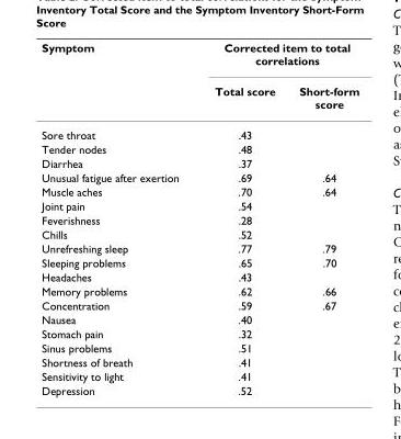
<table><thead><tr><td rowspan="2">Symptom</td><td colspan="2">Corrected item to total correlations</td></tr><tr><td>Total score</td><td>Short-form score</td></tr></thead><tbody><tr><td>Sore throat</td><td>.43</td><td></td></tr><tr><td>Tender nodes</td><td>.48</td><td></td></tr><tr><td>Diarrhea</td><td>.37</td><td></td></tr><tr><td>Unusual fatigue after exertion</td><td>.69</td><td>.64</td></tr><tr><td>Muscle aches</td><td>.70</td><td>.64</td></tr><tr><td>Joint pain</td><td>.54</td><td></td></tr><tr><td>Feverishness</td><td>.28</td><td></td></tr><tr><td>Chills</td><td>.52</td><td></td></tr><tr><td>Unrefreshing sleep</td><td>.77</td><td>.79</td></tr><tr><td>Sleeping problems</td><td>.65</td><td>.70</td></tr><tr><td>Headaches</td><td>.43</td><td></td></tr><tr><td>Memory problems</td><td>.62</td><td>.66</td></tr><tr><td>Concentration</td><td>.59</td><td>.67</td></tr><tr><td>Nausea</td><td>.40</td><td></td></tr><tr><td>Stomach pain</td><td>.32</td><td></td></tr><tr><td>Sinus problems</td><td>.51</td><td></td></tr><tr><td>Shortness of breath</td><td>.41</td><td></td></tr><tr><td>Sensitivity to light</td><td>.41</td><td></td></tr><tr><td>Depression</td><td>.52</td><td></td></tr></tbody></table>